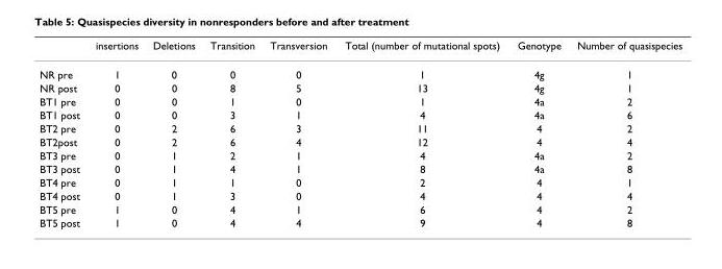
<table><thead><tr><td></td><td>insertions</td><td>Deletions</td><td>Transition</td><td>Transversion</td><td>Total (number of mutational spots)</td><td>Genotype</td><td>Number of quasispecies</td></tr></thead><tbody><tr><td>NR pre</td><td>1</td><td>0</td><td>0</td><td>0</td><td>1</td><td>4g</td><td>1</td></tr><tr><td>NR post</td><td>0</td><td>0</td><td>8</td><td>5</td><td>13</td><td>4g</td><td>1</td></tr><tr><td>BT1 pre</td><td>0</td><td>0</td><td>1</td><td>0</td><td>1</td><td>4a</td><td>2</td></tr><tr><td>BT1 post</td><td>0</td><td>0</td><td>3</td><td>1</td><td>4</td><td>4a</td><td>6</td></tr><tr><td>BT2 pre</td><td>0</td><td>2</td><td>6</td><td>3</td><td>11</td><td>4</td><td>2</td></tr><tr><td>BT2post</td><td>0</td><td>2</td><td>6</td><td>4</td><td>12</td><td>4</td><td>4</td></tr><tr><td>BT3 pre</td><td>0</td><td>1</td><td>2</td><td>1</td><td>4</td><td>4a</td><td>2</td></tr><tr><td>BT3 post</td><td>0</td><td>1</td><td>4</td><td>1</td><td>8</td><td>4a</td><td>8</td></tr><tr><td>BT4 pre</td><td>0</td><td>1</td><td>1</td><td>0</td><td>2</td><td>4</td><td>1</td></tr><tr><td>BT4 post</td><td>0</td><td>1</td><td>3</td><td>0</td><td>4</td><td>4</td><td>4</td></tr><tr><td>BT5 pre</td><td>1</td><td>0</td><td>4</td><td>1</td><td>6</td><td>4</td><td>2</td></tr><tr><td>BT5 post</td><td>1</td><td>0</td><td>4</td><td>4</td><td>9</td><td>4</td><td>8</td></tr></tbody></table>